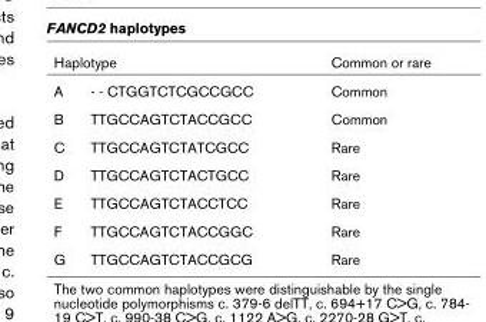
<table><thead><tr><td colspan="2">Haplotype</td><td rowspan="2">Common or rare Common</td></tr><tr><td>A</td><td>- - CTGGTCTCGCCGCC</td></tr></thead><tbody><tr><td>B</td><td>TTGCCAGTCTACCGCC</td><td>Common</td></tr><tr><td>C</td><td>TTGCCAGTCTATCGCC</td><td>Rare</td></tr><tr><td>D</td><td>TTGCCAGTCTACTGCC</td><td>Rare</td></tr><tr><td>E</td><td>TTGCCAGTCTACCTCC</td><td>Rare</td></tr><tr><td>F</td><td>TTGCCAGTCTACCGGC</td><td>Rare</td></tr><tr><td>G</td><td>TTGCCAGTCTACCGCG</td><td>Rare</td></tr></tbody></table>